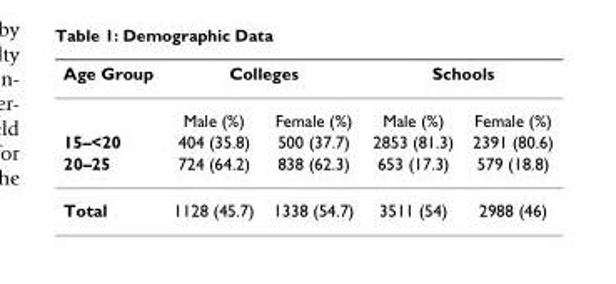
<table><thead><tr><td rowspan="2">Age Group</td><td colspan="2">Colleges</td><td colspan="2">Schools</td></tr><tr><td>Male (%)</td><td>Female (%)</td><td>Male (%)</td><td>Female (%)</td></tr></thead><tbody><tr><td>15–&lt;20</td><td>404 (35.8)</td><td>500 (37.7)</td><td>2853 (81.3)</td><td>2391 (80.6)</td></tr><tr><td>20–25</td><td>724 (64.2)</td><td>838 (62.3)</td><td>653 (17.3)</td><td>579 (18.8)</td></tr><tr><td>Total</td><td>1128 (45.7)</td><td>1338 (54.7)</td><td>3511 (54)</td><td>2988 (46)</td></tr></tbody></table>